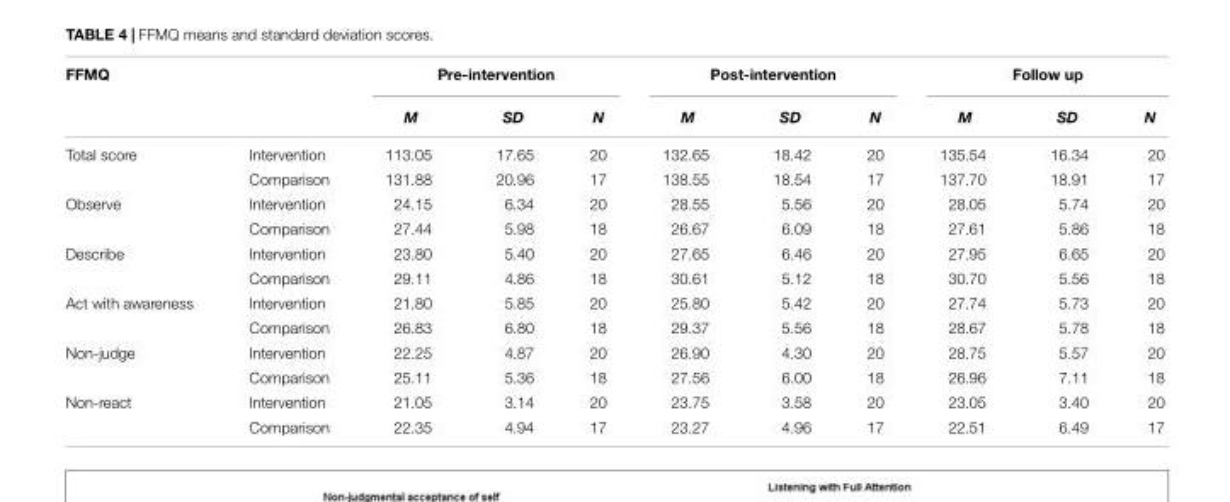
<table><thead><tr><td colspan="2">FFMQ</td><td colspan="3">Pre-intervention</td><td colspan="3">Post-intervention</td><td colspan="3">Follow up</td></tr><tr><td></td><td></td><td>M</td><td>SD</td><td>N</td><td>M</td><td>SD</td><td>N</td><td>M</td><td>SD</td><td>N</td></tr></thead><tbody><tr><td rowspan="2">Total score</td><td>Intervention</td><td>113.05</td><td>17.65</td><td>20</td><td>132.65</td><td>18.42</td><td>20</td><td>135.54</td><td>16.34</td><td>20</td></tr><tr><td>Comparison</td><td>131.88</td><td>20.96</td><td>17</td><td>138.55</td><td>18.54</td><td>17</td><td>137.70</td><td>18.91</td><td>17</td></tr><tr><td rowspan="2">Observe</td><td>Intervention</td><td>24.15</td><td>6.34</td><td>20</td><td>28.55</td><td>5.56</td><td>20</td><td>28.05</td><td>5.74</td><td>20</td></tr><tr><td>Comparison</td><td>27.44</td><td>5.98</td><td>18</td><td>26.67</td><td>6.09</td><td>18</td><td>27.61</td><td>5.86</td><td>18</td></tr><tr><td rowspan="2">Describe</td><td>Intervention</td><td>23.80</td><td>5.40</td><td>20</td><td>27.65</td><td>6.46</td><td>20</td><td>27.95</td><td>6.65</td><td>20</td></tr><tr><td>Comparison</td><td>29.11</td><td>4.86</td><td>18</td><td>30.61</td><td>5.12</td><td>18</td><td>30.70</td><td>5.56</td><td>18</td></tr><tr><td rowspan="2">Act with awareness</td><td>Intervention</td><td>21.80</td><td>5.85</td><td>20</td><td>25.80</td><td>5.42</td><td>20</td><td>27.74</td><td>5.73</td><td>20</td></tr><tr><td>Comparison</td><td>26.83</td><td>6.80</td><td>18</td><td>29.37</td><td>5.56</td><td>18</td><td>28.67</td><td>5.78</td><td>18</td></tr><tr><td rowspan="2">Non-judge</td><td>Intervention</td><td>22.25</td><td>4.87</td><td>20</td><td>26.90</td><td>4.30</td><td>20</td><td>28.75</td><td>5.57</td><td>20</td></tr><tr><td>Comparison</td><td>25.11</td><td>5.36</td><td>18</td><td>27.56</td><td>6.00</td><td>18</td><td>26.96</td><td>7.11</td><td>18</td></tr><tr><td rowspan="2">Non-react</td><td>Intervention</td><td>21.05</td><td>3.14</td><td>20</td><td>23.75</td><td>3.58</td><td>20</td><td>23.05</td><td>3.40</td><td>20</td></tr><tr><td>Comparison</td><td>22.35</td><td>4.94</td><td>17</td><td>23.27</td><td>4.96</td><td>17</td><td>22.51</td><td>6.49</td><td>17</td></tr></tbody></table>